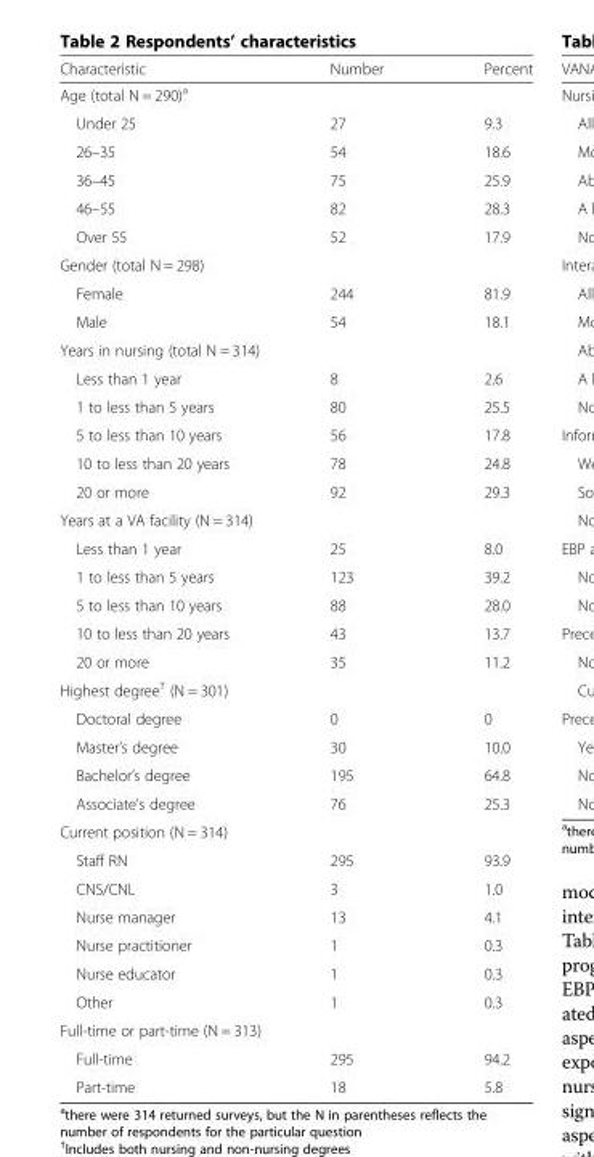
<table><thead><tr><td>Characteristic</td><td>Number</td><td>Percent</td></tr></thead><tbody><tr><td colspan="3">Age (total N = 290)<sup>a</sup></td></tr><tr><td>Under 25</td><td>27</td><td>9.3</td></tr><tr><td>26–35</td><td>54</td><td>18.6</td></tr><tr><td>36–45</td><td>75</td><td>25.9</td></tr><tr><td>46–55</td><td>82</td><td>28.3</td></tr><tr><td>Over 55</td><td>52</td><td>17.9</td></tr><tr><td colspan="3">Gender (total N = 298)</td></tr><tr><td>Female</td><td>244</td><td>81.9</td></tr><tr><td>Male</td><td>54</td><td>18.1</td></tr><tr><td colspan="3">Years in nursing (total N = 314)</td></tr><tr><td>Less than 1 year</td><td>8</td><td>2.6</td></tr><tr><td>1 to less than 5 years</td><td>80</td><td>25.5</td></tr><tr><td>5 to less than 10 years</td><td>56</td><td>17.8</td></tr><tr><td>10 to less than 20 years</td><td>78</td><td>24.8</td></tr><tr><td>20 or more</td><td>92</td><td>29.3</td></tr><tr><td colspan="3">Years at a VA facility (N = 314)</td></tr><tr><td>Less than 1 year</td><td>25</td><td>8.0</td></tr><tr><td>1 to less than 5 years</td><td>123</td><td>39.2</td></tr><tr><td>5 to less than 10 years</td><td>88</td><td>28.0</td></tr><tr><td>10 to less than 20 years</td><td>43</td><td>13.7</td></tr><tr><td>20 or more</td><td>35</td><td>11.2</td></tr><tr><td colspan="3">Highest degree<sup>†</sup> (N = 301)</td></tr><tr><td>Doctoral degree</td><td>0</td><td>0</td></tr><tr><td>Master’s degree</td><td>30</td><td>10.0</td></tr><tr><td>Bachelor’s degree</td><td>195</td><td>64.8</td></tr><tr><td>Associate’s degree</td><td>76</td><td>25.3</td></tr><tr><td colspan="3">Current position (N = 314)</td></tr><tr><td>Staff RN</td><td>295</td><td>93.9</td></tr><tr><td>CNS/CNL</td><td>3</td><td>1.0</td></tr><tr><td>Nurse manager</td><td>13</td><td>4.1</td></tr><tr><td>Nurse practitioner</td><td>1</td><td>0.3</td></tr><tr><td>Nurse educator</td><td>1</td><td>0.3</td></tr><tr><td>Other</td><td>1</td><td>0.3</td></tr><tr><td colspan="3">Full-time or part-time (N = 313)</td></tr><tr><td>Full-time</td><td>295</td><td>94.2</td></tr><tr><td>Part-time</td><td>18</td><td>5.8</td></tr></tbody></table>